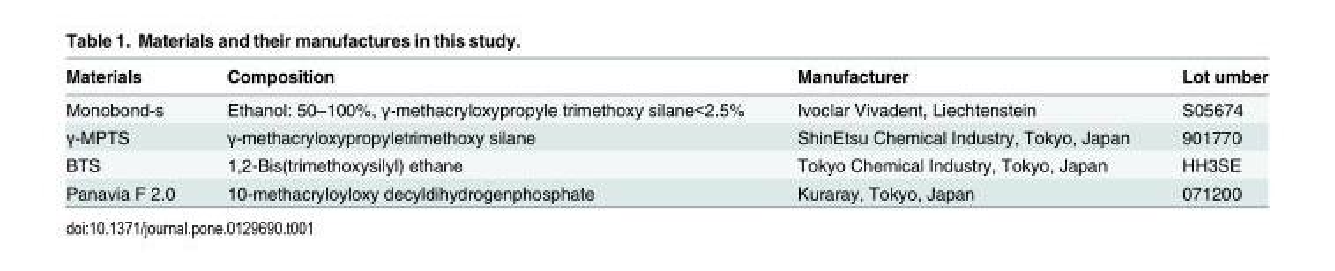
<table><thead><tr><td>Materials</td><td>Composition</td><td>Manufacturer</td><td>Lot umber</td></tr></thead><tbody><tr><td>Monobond-s</td><td>Ethanol: 50–100%, γ-methacryloxypropyle trimethoxy silane&lt;2.5%</td><td>Ivoclar Vivadent, Liechtenstein</td><td>S05674</td></tr><tr><td>γ-MPTS</td><td>γ-methacryloxypropyletrimethoxy silane</td><td>ShinEtsu Chemical Industry, Tokyo, Japan</td><td>901770</td></tr><tr><td>BTS</td><td>1,2-Bis(trimethoxysilyl) ethane</td><td>Tokyo Chemical Industry, Tokyo, Japan</td><td>HH3SE</td></tr><tr><td>Panavia F 2.0</td><td>10-methacryloyloxy decyldihydrogenphosphate</td><td>Kuraray, Tokyo, Japan</td><td>071200</td></tr></tbody></table>